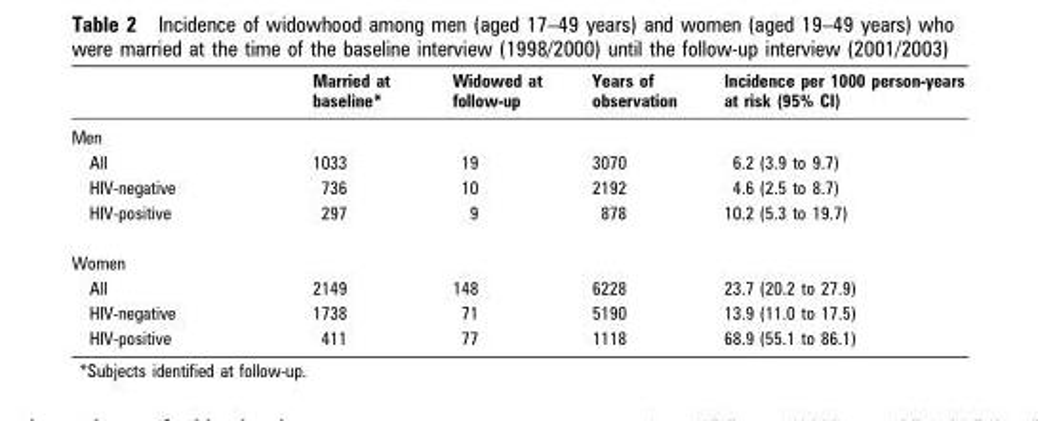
<table><thead><tr><td></td><td>Married at baseline*</td><td>Widowed at follow-up</td><td>Years of observation</td><td>Incidence per 1000 person-years at risk (95% CI)</td></tr></thead><tbody><tr><td colspan="5">Men</td></tr><tr><td>All</td><td>1033</td><td>19</td><td>3070</td><td>6.2 (3.9 to 9.7)</td></tr><tr><td>HIV-negative</td><td>736</td><td>10</td><td>2192</td><td>4.6 (2.5 to 8.7)</td></tr><tr><td>HIV-positive</td><td>297</td><td>9</td><td>878</td><td>10.2 (5.3 to 19.7)</td></tr><tr><td colspan="5">Women</td></tr><tr><td>All</td><td>2149</td><td>148</td><td>6228</td><td>23.7 (20.2 to 27.9)</td></tr><tr><td>HIV-negative</td><td>1738</td><td>71</td><td>5190</td><td>13.9 (11.0 to 17.5)</td></tr><tr><td>HIV-positive</td><td>411</td><td>77</td><td>1118</td><td>68.9 (55.1 to 86.1)</td></tr></tbody></table>